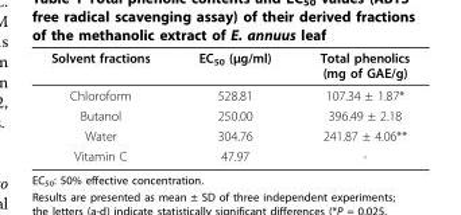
<table><thead><tr><td>Solvent fractions</td><td>EC<sub>50</sub> (μg/ml)</td><td>Total phenolics (mg of GAE/g)</td></tr></thead><tbody><tr><td>Chloroform</td><td>528.81</td><td>107.34 ± 1.87*</td></tr><tr><td>Butanol</td><td>250.00</td><td>396.49 ± 2.18</td></tr><tr><td>Water</td><td>304.76</td><td>241.87 ± 4.06**</td></tr><tr><td>Vitamin C</td><td>47.97</td><td>-</td></tr></tbody></table>